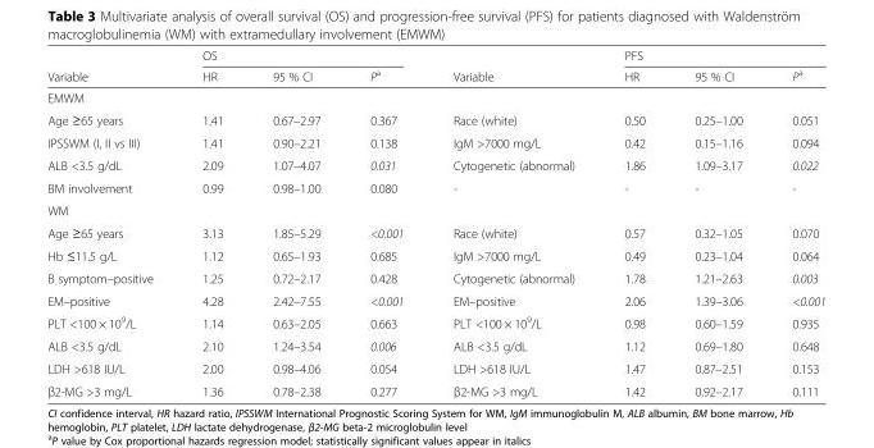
<table><thead><tr><td rowspan="2">Variable</td><td colspan="3">OS</td><td rowspan="2">Variable</td><td colspan="3">PFS</td></tr><tr><td>HR</td><td>95 % CI</td><td>P<sup>a</sup></td><td>HR</td><td>95 % CI</td><td>P<sup>a</sup></td></tr></thead><tbody><tr><td colspan="8">EMWM</td></tr><tr><td>Age ≥65 years</td><td>1.41</td><td>0.67–2.97</td><td>0.367</td><td>Race (white)</td><td>0.50</td><td>0.25–1.00</td><td>0.051</td></tr><tr><td>IPSSWM (I, II vs III)</td><td>1.41</td><td>0.90–2.21</td><td>0.138</td><td>IgM &gt;7000 mg/L</td><td>0.42</td><td>0.15–1.16</td><td>0.094</td></tr><tr><td>ALB &lt;3.5 g/dL</td><td>2.09</td><td>1.07–4.07</td><td>0.031</td><td>Cytogenetic (abnormal)</td><td>1.86</td><td>1.09–3.17</td><td>0.022</td></tr><tr><td>BM involvement</td><td>0.99</td><td>0.98–1.00</td><td>0.080</td><td>-</td><td>-</td><td>-</td><td>-</td></tr><tr><td colspan="8">WM</td></tr><tr><td>Age ≥65 years</td><td>3.13</td><td>1.85–5.29</td><td>&lt;0.001</td><td>Race (white)</td><td>0.57</td><td>0.32–1.05</td><td>0.070</td></tr><tr><td>Hb ≤11.5 g/L</td><td>1.12</td><td>0.65–1.93</td><td>0.685</td><td>IgM &gt;7000 mg/L</td><td>0.49</td><td>0.23–1.04</td><td>0.064</td></tr><tr><td>B symptom–positive</td><td>1.25</td><td>0.72–2.17</td><td>0.428</td><td>Cytogenetic (abnormal)</td><td>1.78</td><td>1.21–2.63</td><td>0.003</td></tr><tr><td>EM–positive</td><td>4.28</td><td>2.42–7.55</td><td>&lt;0.001</td><td>EM–positive</td><td>2.06</td><td>1.39–3.06</td><td>&lt;0.001</td></tr><tr><td>PLT &lt;100 × 10<sup>9</sup>/L</td><td>1.14</td><td>0.63–2.05</td><td>0.663</td><td>PLT &lt;100 × 10<sup>9</sup>/L</td><td>0.98</td><td>0.60–1.59</td><td>0.935</td></tr><tr><td>ALB &lt;3.5 g/dL</td><td>2.10</td><td>1.24–3.54</td><td>0.006</td><td>ALB &lt;3.5 g/dL</td><td>1.12</td><td>0.69–1.80</td><td>0.648</td></tr><tr><td>LDH &gt;618 IU/L</td><td>2.00</td><td>0.98–4.06</td><td>0.054</td><td>LDH &gt;618 IU/L</td><td>1.47</td><td>0.87–2.51</td><td>0.153</td></tr><tr><td>β2-MG &gt;3 mg/L</td><td>1.36</td><td>0.78–2.38</td><td>0.277</td><td>β2-MG &gt;3 mg/L</td><td>1.42</td><td>0.92–2.17</td><td>0.111</td></tr></tbody></table>